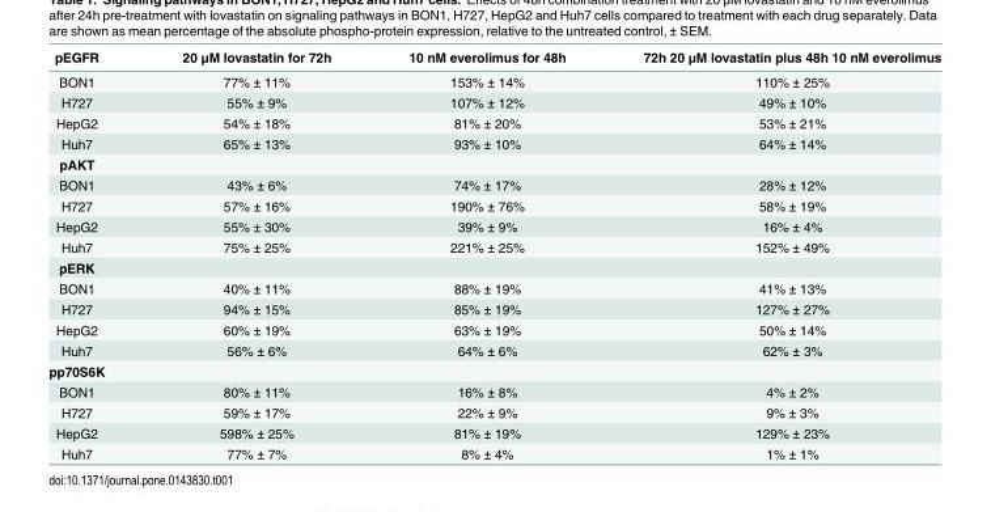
<table><thead><tr><td>pEGFR</td><td>20 μM lovastatin for 72h</td><td>10 nM everolimus for 48h</td><td>72h 20 μM lovastatin plus 48h 10 nM everolimus</td></tr></thead><tbody><tr><td>BON1</td><td>77% ± 11%</td><td>153% ± 14%</td><td>110% ± 25%</td></tr><tr><td>H727</td><td>55% ± 9%</td><td>107% ± 12%</td><td>49% ± 10%</td></tr><tr><td>HepG2</td><td>54% ± 18%</td><td>81% ± 20%</td><td>53% ± 21%</td></tr><tr><td>Huh7</td><td>65% ± 13%</td><td>93% ± 10%</td><td>64% ± 14%</td></tr><tr><td colspan="4">pAKT</td></tr><tr><td>BON1</td><td>43% ± 6%</td><td>74% ± 17%</td><td>28% ± 12%</td></tr><tr><td>H727</td><td>57% ± 16%</td><td>190% ± 76%</td><td>58% ± 19%</td></tr><tr><td>HepG2</td><td>55% ± 30%</td><td>39% ± 9%</td><td>16% ± 4%</td></tr><tr><td>Huh7</td><td>75% ± 25%</td><td>221% ± 25%</td><td>152% ± 49%</td></tr><tr><td colspan="4">pERK</td></tr><tr><td>BON1</td><td>40% ± 11%</td><td>88% ± 19%</td><td>41% ± 13%</td></tr><tr><td>H727</td><td>94% ± 15%</td><td>85% ± 19%</td><td>127% ± 27%</td></tr><tr><td>HepG2</td><td>60% ± 19%</td><td>63% ± 19%</td><td>50% ± 14%</td></tr><tr><td>Huh7</td><td>56% ± 6%</td><td>64% ± 6%</td><td>62% ± 3%</td></tr><tr><td colspan="4">pp70S6K</td></tr><tr><td>BON1</td><td>80% ± 11%</td><td>16% ± 8%</td><td>4% ± 2%</td></tr><tr><td>H727</td><td>59% ± 17%</td><td>22% ± 9%</td><td>9% ± 3%</td></tr><tr><td>HepG2</td><td>598% ± 25%</td><td>81% ± 19%</td><td>129% ± 23%</td></tr><tr><td>Huh7</td><td>77% ± 7%</td><td>8% ± 4%</td><td>1% ± 1%</td></tr></tbody></table>